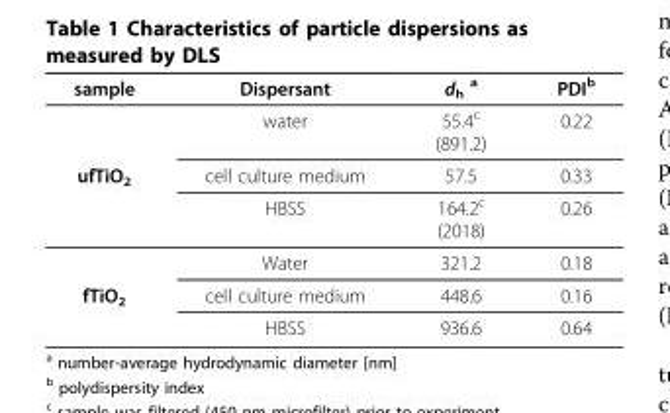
<table><thead><tr><td>sample</td><td>Dispersant</td><td>d<sub>h</sub> <sup>a</sup></td><td>PDI<sup>b</sup></td></tr></thead><tbody><tr><td></td><td>water</td><td>55.4<sup>c</sup> (891.2)</td><td>0.22</td></tr><tr><td rowspan="3">ufTiO<sub>2</sub></td><td>cell culture medium</td><td>57.5</td><td>0.33</td></tr><tr><td>HBSS</td><td>164.2<sup>c</sup> (2018)</td><td>0.26</td></tr><tr><td>Water</td><td>321.2</td><td>0.18</td></tr><tr><td rowspan="2">fTiO<sub>2</sub></td><td>cell culture medium</td><td>448.6</td><td>0.16</td></tr><tr><td>HBSS</td><td>936.6</td><td>0.64</td></tr></tbody></table>